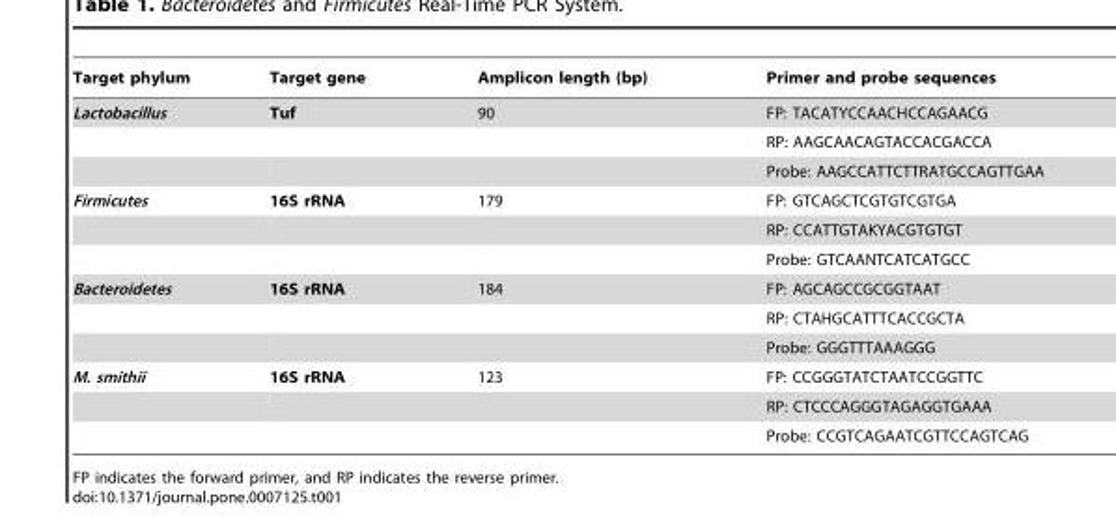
<table><thead><tr><td>Target phylum</td><td>Target gene</td><td>Amplicon length (bp)</td><td>Primer and probe sequences</td></tr></thead><tbody><tr><td rowspan="3">Lactobacillus</td><td>Tuf</td><td>90</td><td>FP: TACATYCCAACHCCAGAACG</td></tr><tr><td></td><td></td><td>RP: AAGCAACAGTACCACGACCA</td></tr><tr><td></td><td></td><td>Probe: AAGCCATTCTTRATGCCAGTTGAA</td></tr><tr><td rowspan="3">Firmicutes</td><td>16S rRNA</td><td>179</td><td>FP: GTCAGCTCGTGTCGTGA</td></tr><tr><td></td><td></td><td>RP: CCATTGTAKYACGTGTGT</td></tr><tr><td></td><td></td><td>Probe: GTCAANTCATCATGCC</td></tr><tr><td rowspan="3">Bacteroidetes</td><td>16S rRNA</td><td>184</td><td>FP: AGCAGCCGCGGTAAT</td></tr><tr><td></td><td></td><td>RP: CTAHGCATTTCACCGCTA</td></tr><tr><td></td><td></td><td>Probe: GGGTTTAAAGGG</td></tr><tr><td rowspan="3">M. smithii</td><td>16S rRNA</td><td>123</td><td>FP: CCGGGTATCTAATCCGGTTC</td></tr><tr><td></td><td></td><td>RP: CTCCCAGGGTAGAGGTGAAA</td></tr><tr><td></td><td></td><td>Probe: CCGTCAGAATCGTTCCAGTCAG</td></tr></tbody></table>